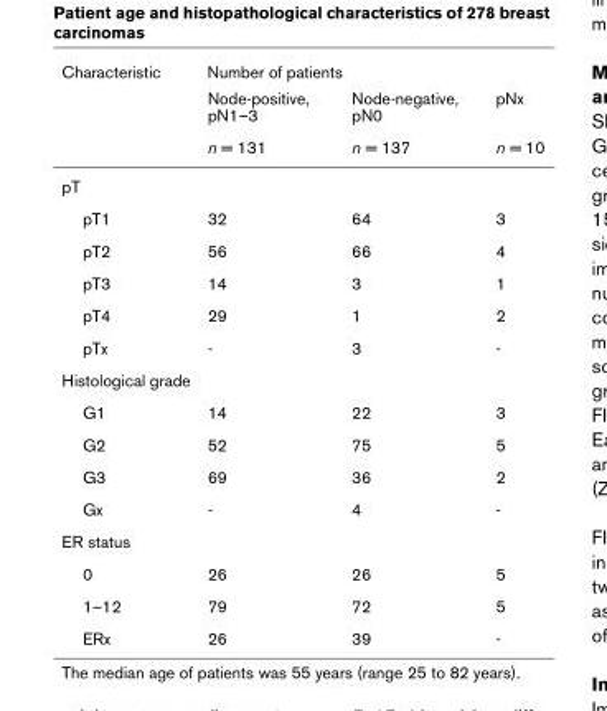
<table><thead><tr><td rowspan="3">Characteristic</td><td colspan="3">Number of patients</td></tr><tr><td rowspan="2">Node-positive, pN1–3 n = 131</td><td rowspan="2">Node-negative, pN0 n = 137</td><td rowspan="2">pNx n = 10</td></tr><tr></tr></thead><tbody><tr><td colspan="4">pT</td></tr><tr><td>pT1</td><td>32</td><td>64</td><td>3</td></tr><tr><td>pT2</td><td>56</td><td>66</td><td>4</td></tr><tr><td>pT3</td><td>14</td><td>3</td><td>1</td></tr><tr><td>pT4</td><td>29</td><td>1</td><td>2</td></tr><tr><td>pTx</td><td>-</td><td>3</td><td>-</td></tr><tr><td colspan="4">Histological grade</td></tr><tr><td>G1</td><td>14</td><td>22</td><td>3</td></tr><tr><td>G2</td><td>52</td><td>75</td><td>5</td></tr><tr><td>G3</td><td>69</td><td>36</td><td>2</td></tr><tr><td>Gx</td><td>-</td><td>4</td><td>-</td></tr><tr><td colspan="4">ER status</td></tr><tr><td>0</td><td>26</td><td>26</td><td>5</td></tr><tr><td>1–12</td><td>79</td><td>72</td><td>5</td></tr><tr><td>ERx</td><td>26</td><td>39</td><td>-</td></tr></tbody></table>